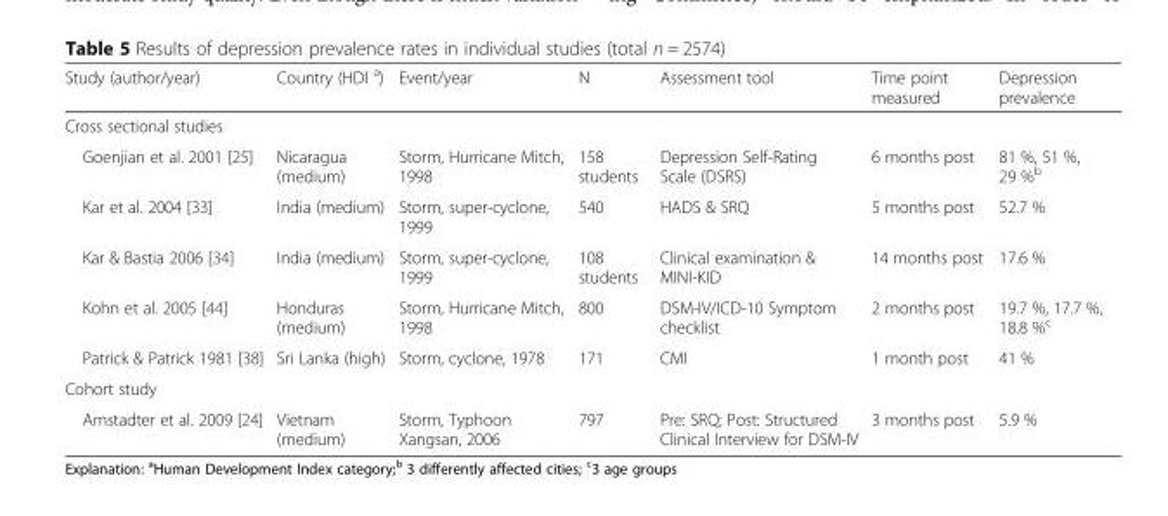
<table><thead><tr><td>Study (author/year)</td><td>Country (HDI <sup>a</sup>)</td><td>Event/year</td><td>N</td><td>Assessment tool</td><td>Time point measured</td><td>Depression prevalence</td></tr></thead><tbody><tr><td colspan="7">Cross sectional studies</td></tr><tr><td>Goenjian et al. 2001 [25]</td><td>Nicaragua (medium)</td><td>Storm, Hurricane Mitch, 1998</td><td>158 students</td><td>Depression Self-Rating Scale (DSRS)</td><td>6 months post</td><td>81 %, 51 %, 29 %<sup>b</sup></td></tr><tr><td>Kar et al. 2004 [33]</td><td>India (medium)</td><td>Storm, super-cyclone, 1999</td><td>540</td><td>HADS &amp; SRQ</td><td>5 months post</td><td>52.7 %</td></tr><tr><td>Kar &amp; Bastia 2006 [34]</td><td>India (medium)</td><td>Storm, super-cyclone, 1999</td><td>108 students</td><td>Clinical examination &amp; MINI-KID</td><td>14 months post</td><td>17.6 %</td></tr><tr><td>Kohn et al. 2005 [44]</td><td>Honduras (medium)</td><td>Storm, Hurricane Mitch, 1998</td><td>800</td><td>DSM-IV/ICD-10 Symptom checklist</td><td>2 months post</td><td>19.7 %, 17.7 %, 18.8 %<sup>c</sup></td></tr><tr><td>Patrick &amp; Patrick 1981 [38]</td><td>Sri Lanka (high)</td><td>Storm, cyclone, 1978</td><td>171</td><td>CMI</td><td>1 month post</td><td>41 %</td></tr><tr><td colspan="7">Cohort study</td></tr><tr><td>Amstadter et al. 2009 [24]</td><td>Vietnam (medium)</td><td>Storm, Typhoon Xangsan, 2006</td><td>797</td><td>Pre: SRQ; Post: Structured Clinical Interview for DSM-IV</td><td>3 months post</td><td>5.9 %</td></tr></tbody></table>